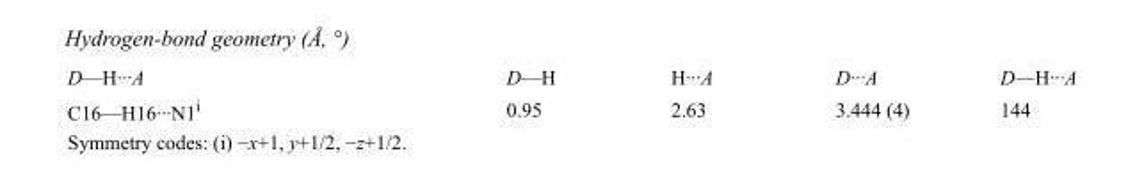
<table><tbody><tr><td>D—H···A</td><td>D—H</td><td>H···A</td><td>D···A</td><td>D—H···A</td></tr><tr><td>C16—H16···N1<sup>i</sup></td><td>0.95</td><td>2.63</td><td>3.444 (4)</td><td>144</td></tr></tbody></table>